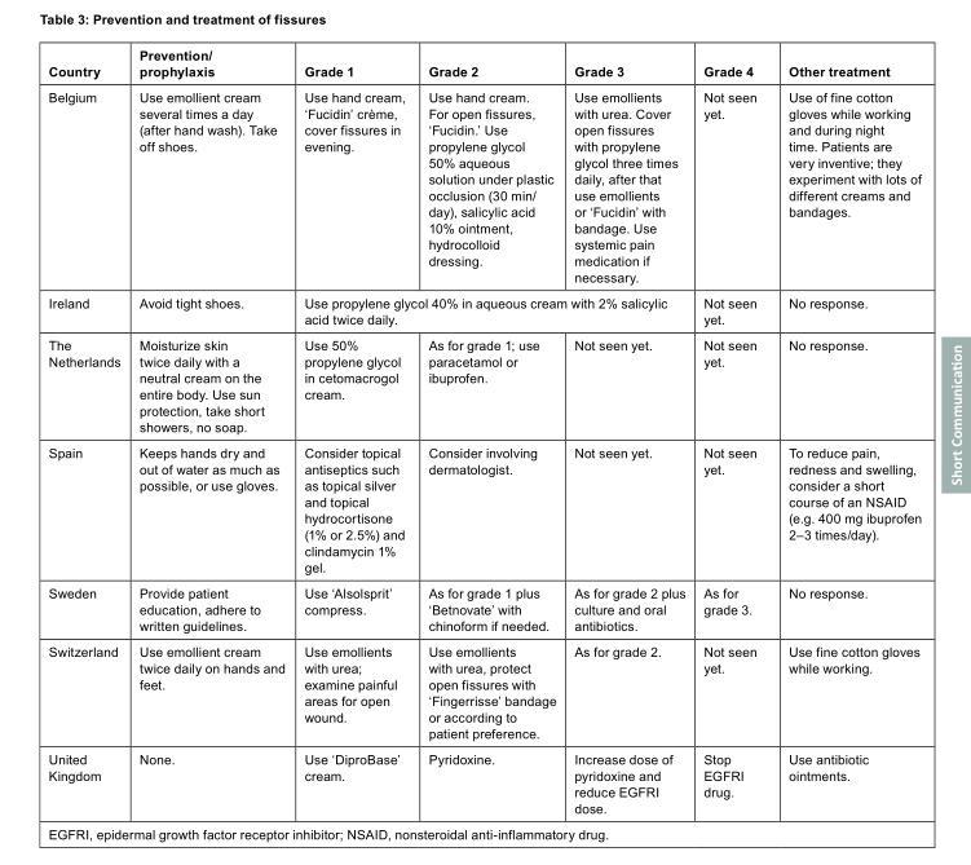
<table><thead><tr><td>Country</td><td>Prevention/ prophylaxis</td><td>Grade 1</td><td>Grade 2</td><td>Grade 3</td><td>Grade 4</td><td>Other treatment</td></tr></thead><tbody><tr><td>Belgium</td><td>Use emollient cream several times a day (after hand wash). Take off shoes.</td><td>Use hand cream, ‘Fucidin’ crème, cover fissures in evening.</td><td>Use hand cream. For open fissures, ‘Fucidin.’ Use propylene glycol 50% aqueous solution under plastic occlusion (30 min/ day), salicylic acid 10% ointment, hydrocolloid dressing.</td><td>Use emollients with urea. Cover open fissures with propylene glycol three times daily, after that use emollients or ‘Fucidin’ with bandage. Use systemic pain medication if necessary.</td><td>Not seen yet.</td><td>Use of fine cotton gloves while working and during night time. Patients are very inventive; they experiment with lots of different creams and bandages.</td></tr><tr><td>Ireland</td><td>Avoid tight shoes.</td><td colspan="3">Use propylene glycol 40% in aqueous cream with 2% salicylic acid twice daily.</td><td>Not seen yet.</td><td>No response.</td></tr><tr><td>The Netherlands</td><td>Moisturize skin twice daily with a neutral cream on the entire body. Use sun protection, take short showers, no soap.</td><td>Use 50% propylene glycol in cetomacrogol cream.</td><td>As for grade 1; use paracetamol or ibuprofen.</td><td>Not seen yet.</td><td>Not seen yet.</td><td>No response.</td></tr><tr><td>Spain</td><td>Keeps hands dry and out of water as much as possible, or use gloves.</td><td>Consider topical antiseptics such as topical silver and topical hydrocortisone (1% or 2.5%) and clindamycin 1% gel.</td><td>Consider involving dermatologist.</td><td>Not seen yet.</td><td>Not seen yet.</td><td>To reduce pain, redness and swelling, consider a short course of an NSAID (e.g. 400 mg ibuprofen 2–3 times/day).</td></tr><tr><td>Sweden</td><td>Provide patient education, adhere to written guidelines.</td><td>Use ‘Alsolsprit’ compress.</td><td>As for grade 1 plus ‘Betnovate’ with chinoform if needed.</td><td>As for grade 2 plus culture and oral antibiotics.</td><td>As for grade 3.</td><td>No response.</td></tr><tr><td>Switzerland</td><td>Use emollient cream twice daily on hands and feet.</td><td>Use emollients with urea; examine painful areas for open wound.</td><td>Use emollients with urea, protect open fissures with ‘Fingerrisse’ bandage or according to patient preference.</td><td>As for grade 2.</td><td>Not seen yet.</td><td>Use fine cotton gloves while working.</td></tr><tr><td>United Kingdom</td><td>None.</td><td>Use ‘DiproBase’ cream.</td><td>Pyridoxine.</td><td>Increase dose of pyridoxine and reduce EGFRI dose.</td><td>Stop EGFRI drug.</td><td>Use antibiotic ointments.</td></tr></tbody></table>